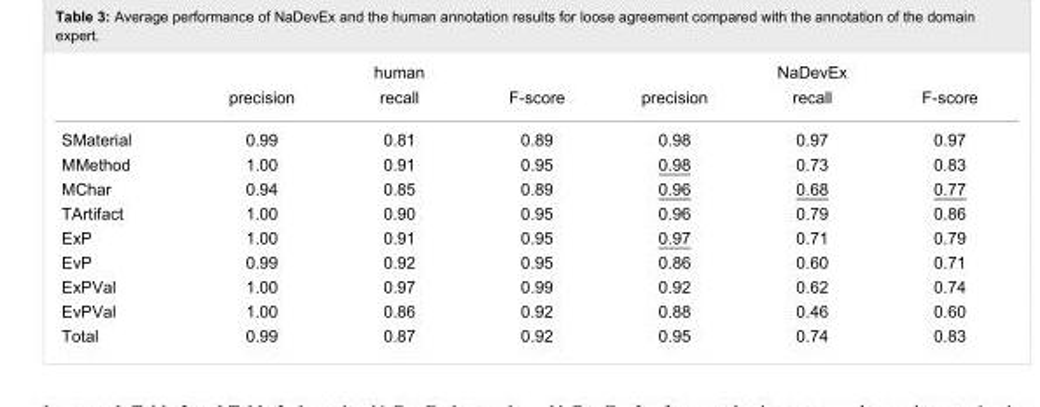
<table><thead><tr><td rowspan="2"></td><td colspan="3">human</td><td colspan="3">NaDevEx</td></tr><tr><td>precision</td><td>recall</td><td>F-score</td><td>precision</td><td>recall</td><td>F-score</td></tr></thead><tbody><tr><td>SMaterial</td><td>0.99</td><td>0.81</td><td>0.89</td><td>0.98</td><td>0.97</td><td>0.97</td></tr><tr><td>MMethod</td><td>1.00</td><td>0.91</td><td>0.95</td><td>0.98</td><td>0.73</td><td>0.83</td></tr><tr><td>MChar</td><td>0.94</td><td>0.85</td><td>0.89</td><td>0.96</td><td>0.68</td><td>0.77</td></tr><tr><td>TArtifact</td><td>1.00</td><td>0.90</td><td>0.95</td><td>0.96</td><td>0.79</td><td>0.86</td></tr><tr><td>ExP</td><td>1.00</td><td>0.91</td><td>0.95</td><td>0.97</td><td>0.71</td><td>0.79</td></tr><tr><td>EvP</td><td>0.99</td><td>0.92</td><td>0.95</td><td>0.86</td><td>0.60</td><td>0.71</td></tr><tr><td>ExPVal</td><td>1.00</td><td>0.97</td><td>0.99</td><td>0.92</td><td>0.62</td><td>0.74</td></tr><tr><td>EvPVal</td><td>1.00</td><td>0.86</td><td>0.92</td><td>0.88</td><td>0.46</td><td>0.60</td></tr><tr><td>Total</td><td>0.99</td><td>0.87</td><td>0.92</td><td>0.95</td><td>0.74</td><td>0.83</td></tr></tbody></table>